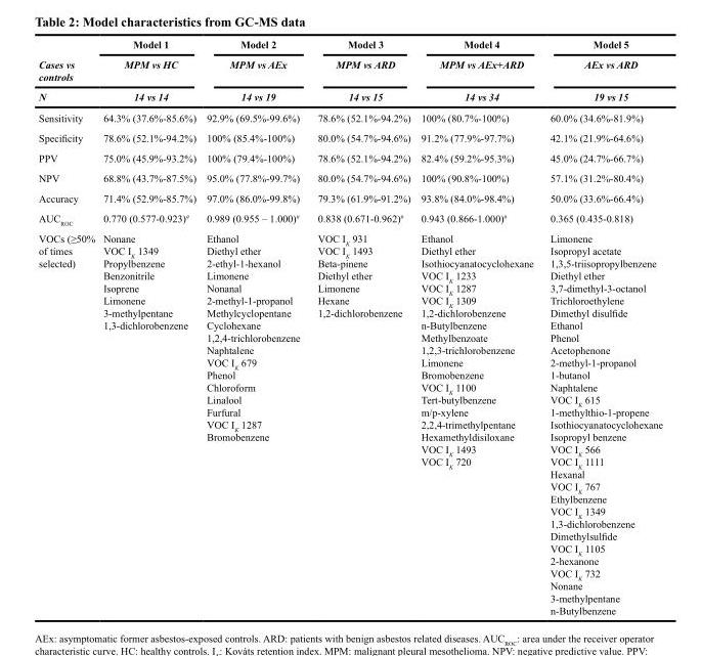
<table><thead><tr><td rowspan="3">Cases vs controls N</td><td rowspan="3">Model 1 MPM vs HC 14 vs 14</td><td rowspan="3">Model 2 MPM vs AEx 14 vs 19</td><td rowspan="3">Model 3 MPM vs ARD 14 vs 15</td><td rowspan="3">Model 4 MPM vs AEx+ARD 14 vs 34</td><td rowspan="3">Model 5 AEx vs ARD 19 vs 15</td></tr><tr></tr><tr></tr></thead><tbody><tr><td>Sensitivity</td><td>64.3% (37.6%-85.6%)</td><td>92.9% (69.5%-99.6%)</td><td>78.6% (52.1%-94.2%)</td><td>100% (80.7%-100%)</td><td>60.0% (34.6%-81.9%)</td></tr><tr><td>Specificity</td><td>78.6% (52.1%-94.2%)</td><td>100% (85.4%-100%)</td><td>80.0% (54.7%-94.6%)</td><td>91.2% (77.9%-97.7%)</td><td>42.1% (21.9%-64.6%)</td></tr><tr><td>PPV</td><td>75.0% (45.9%-93.2%)</td><td>100% (79.4%-100%)</td><td>78.6% (52.1%-94.2%)</td><td>82.4% (59.2%-95.3%)</td><td>45.0% (24.7%-66.7%)</td></tr><tr><td>NPV</td><td>68.8% (43.7%-87.5%)</td><td>95.0% (77.8%-99.7%)</td><td>80.0% (54.7%-94.6%)</td><td>100% (90.8%-100%)</td><td>57.1% (31.2%-80.4%)</td></tr><tr><td>Accuracy</td><td>71.4% (52.9%-85.7%)</td><td>97.0% (86.0%-99.8%)</td><td>79.3% (61.9%-91.2%)</td><td>93.8% (84.0%-98.4%)</td><td>50.0% (33.6%-66.4%)</td></tr><tr><td>AUC<sub>ROC</sub></td><td>0.770 (0.577-0.923)<sup>#</sup></td><td>0.989 (0.955 – 1.000)<sup>#</sup></td><td>0.838 (0.671-0.962)<sup>#</sup></td><td>0.943 (0.866-1.000)<sup>#</sup></td><td>0.365 (0.435-0.818)</td></tr><tr><td>VOCs (≥50% of times selected)</td><td>Nonane VOC I<sub>K</sub> 1349 Propylbenzene Benzonitrile Isoprene Limonene 3-methylpentane 1,3-dichlorobenzene</td><td>Ethanol Diethyl ether 2-ethyl-1-hexanol Limonene Nonanal 2-methyl-1-propanol Methylcyclopentane Cyclohexane 1,2,4-trichlorobenzene Naphtalene VOC I<sub>K</sub> 679 Phenol Chloroform Linalool Furfural VOC I<sub>K</sub> 1287 Bromobenzene</td><td>VOC I<sub>K</sub> 931 VOC I<sub>K</sub> 1493 Beta-pinene Diethyl ether Limonene Hexane 1,2-dichlorobenzene</td><td>Ethanol Diethyl ether Isothiocyanatocyclohexane VOC I<sub>K</sub> 1233 VOC I<sub>K</sub> 1287 VOC I<sub>K</sub> 1309 1,2-dichlorobenzene n-Butylbenzene Methylbenzoate 1,2,3-trichlorobenzene Limonene Bromobenzene VOC I<sub>K</sub> 1100 Tert-butylbenzene m/p-xylene 2,2,4-trimethylpentane Hexamethyldisiloxane VOC I<sub>K</sub> 1493 VOC I<sub>K</sub> 720</td><td>Limonene Isopropyl acetate 1,3,5-triisopropylbenzene Diethyl ether 3,7-dimethyl-3-octanol Trichloroethylene Dimethyl disulfide Ethanol Phenol Acetophenone 2-methyl-1-propanol 1-butanol Naphtalene VOC I<sub>K</sub> 615 1-methylthio-1-propene Isothiocyanatocyclohexane Isopropyl benzene VOC I<sub>K</sub> 566 VOC I<sub>K</sub> 1111 Hexanal VOC I<sub>K</sub> 767 Ethylbenzene VOC I<sub>K</sub> 1349 1,3-dichlorobenzene Dimethylsulfide VOC I<sub>K</sub> 1105 2-hexanone VOC I<sub>K</sub> 732 Nonane 3-methylpentane n-Butylbenzene</td></tr></tbody></table>